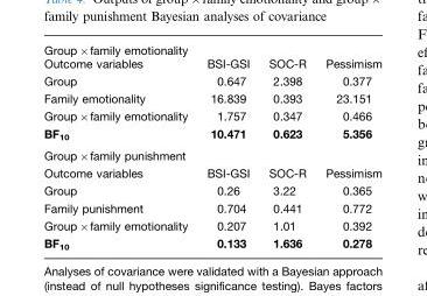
<table><tbody><tr><td colspan="4">Group×family emotionality</td></tr><tr><td>Outcome variables</td><td>BSI-GSI</td><td>SOC-R</td><td>Pessimism</td></tr><tr><td>Group</td><td>0.647</td><td>2.398</td><td>0.377</td></tr><tr><td>Family emotionality</td><td>16.839</td><td>0.393</td><td>23.151</td></tr><tr><td>Group×family emotionality</td><td>1.757</td><td>0.347</td><td>0.466</td></tr><tr><td>BF<sub>10</sub></td><td>10.471</td><td>0.623</td><td>5.356</td></tr><tr><td colspan="4">Group×family punishment</td></tr><tr><td>Outcome variables</td><td>BSI-GSI</td><td>SOC-R</td><td>Pessimism</td></tr><tr><td>Group</td><td>0.26</td><td>3.22</td><td>0.365</td></tr><tr><td>Family punishment</td><td>0.704</td><td>0.441</td><td>0.772</td></tr><tr><td>Group×family emotionality</td><td>0.207</td><td>1.01</td><td>0.392</td></tr><tr><td>BF<sub>10</sub></td><td>0.133</td><td>1.636</td><td>0.278</td></tr></tbody></table>